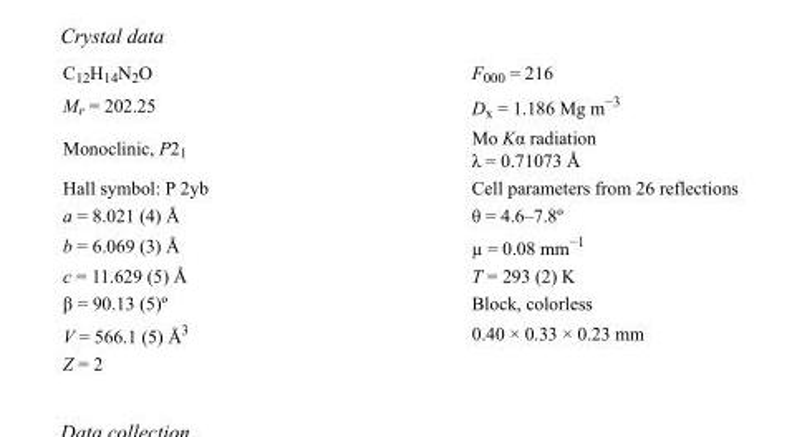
<table><tbody><tr><td>C<sub>12</sub>H<sub>14</sub>N<sub>2</sub>O</td><td>F<sub>000</sub> = 216</td></tr><tr><td>M<sub>r</sub> = 202.25</td><td>D<sub>x</sub> = 1.186 Mg m<sup>−3</sup></td></tr><tr><td>Monoclinic, P2<sub>1</sub></td><td>Mo Kα radiation λ = 0.71073 Å</td></tr><tr><td>Hall symbol: P 2yb</td><td>Cell parameters from 26 reflections</td></tr><tr><td>a = 8.021 (4) Å</td><td>θ = 4.6–7.8º</td></tr><tr><td>b = 6.069 (3) Å</td><td>µ = 0.08 mm<sup>−1</sup></td></tr><tr><td>c = 11.629 (5) Å</td><td>T = 293 (2) K</td></tr><tr><td>β = 90.13 (5)º</td><td>Block, colorless</td></tr><tr><td>V = 566.1 (5) Å<sup>3</sup></td><td>0.40 × 0.33 × 0.23 mm</td></tr><tr><td>Z = 2</td><td></td></tr></tbody></table>